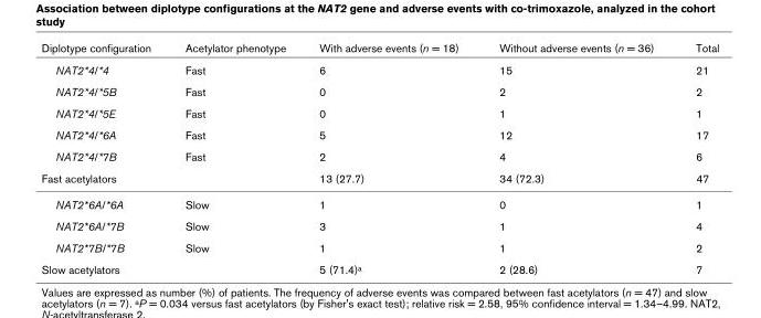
<table><thead><tr><td>Diplotype configuration</td><td>Acetylator phenotype</td><td>With adverse events (n = 18)</td><td>Without adverse events (n = 36)</td><td>Total</td></tr></thead><tbody><tr><td>NAT2*4/*4</td><td>Fast</td><td>6</td><td>15</td><td>21</td></tr><tr><td>NAT2*4/*5B</td><td>Fast</td><td>0</td><td>2</td><td>2</td></tr><tr><td>NAT2*4/*5E</td><td>Fast</td><td>0</td><td>1</td><td>1</td></tr><tr><td>NAT2*4/*6A</td><td>Fast</td><td>5</td><td>12</td><td>17</td></tr><tr><td>NAT2*4/*7B</td><td>Fast</td><td>2</td><td>4</td><td>6</td></tr><tr><td colspan="2">Fast acetylators</td><td>13 (27.7)</td><td>34 (72.3)</td><td>47</td></tr><tr><td>NAT2*6A/*6A</td><td>Slow</td><td>1</td><td>0</td><td>1</td></tr><tr><td>NAT2*6A/*7B</td><td>Slow</td><td>3</td><td>1</td><td>4</td></tr><tr><td>NAT2*7B/*7B</td><td>Slow</td><td>1</td><td>1</td><td>2</td></tr><tr><td colspan="2">Slow acetylators</td><td>5 (71.4)<sup>a</sup></td><td>2 (28.6)</td><td>7</td></tr></tbody></table>